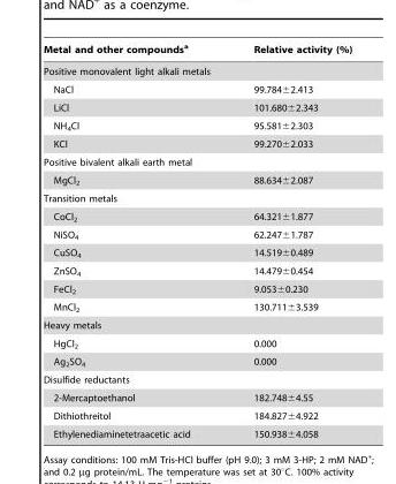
<table><thead><tr><td>Metal and other compounds<sup>a</sup></td><td>Relative activity (%)</td></tr></thead><tbody><tr><td colspan="2">Positive monovalent light alkali metals</td></tr><tr><td>NaCl</td><td>99.784±2.413</td></tr><tr><td>LiCl</td><td>101.680±2.343</td></tr><tr><td>NH<sub>4</sub>Cl</td><td>95.581±2.303</td></tr><tr><td>KCl</td><td>99.270±2.033</td></tr><tr><td colspan="2">Positive bivalent alkali earth metal</td></tr><tr><td>MgCl<sub>2</sub></td><td>88.634±2.087</td></tr><tr><td colspan="2">Transition metals</td></tr><tr><td>CoCl<sub>2</sub></td><td>64.321±1.877</td></tr><tr><td>NiSO<sub>4</sub></td><td>62.247±1.787</td></tr><tr><td>CuSO<sub>4</sub></td><td>14.519±0.489</td></tr><tr><td>ZnSO<sub>4</sub></td><td>14.479±0.454</td></tr><tr><td>FeCl<sub>2</sub></td><td>9.053±0.230</td></tr><tr><td>MnCl<sub>2</sub></td><td>130.711±3.539</td></tr><tr><td colspan="2">Heavy metals</td></tr><tr><td>HgCl<sub>2</sub></td><td>0.000</td></tr><tr><td>Ag<sub>2</sub>SO<sub>4</sub></td><td>0.000</td></tr><tr><td colspan="2">Disulfide reductants</td></tr><tr><td>2-Mercaptoethanol</td><td>182.748±4.55</td></tr><tr><td>Dithiothreitol</td><td>184.827±4.922</td></tr><tr><td>Ethylenediaminetetraacetic acid</td><td>150.938±4.058</td></tr></tbody></table>